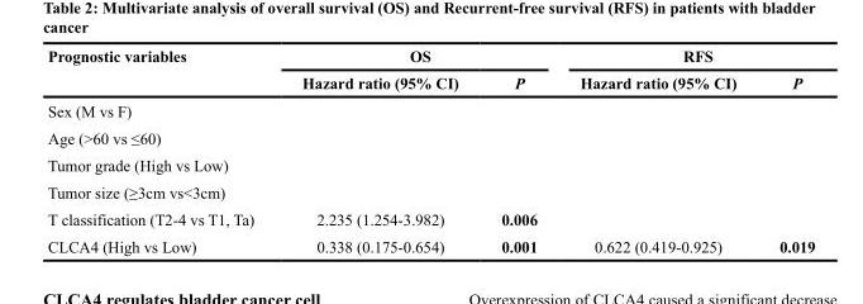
<table><thead><tr><td rowspan="2">Prognostic variables</td><td colspan="2">OS</td><td colspan="2">RFS</td></tr><tr><td>Hazard ratio (95% CI)</td><td>P</td><td>Hazard ratio (95% CI)</td><td>P</td></tr></thead><tbody><tr><td colspan="5">Sex (M vs F)</td></tr><tr><td colspan="5">Age (&gt;60 vs ≤60)</td></tr><tr><td colspan="5">Tumor grade (High vs Low)</td></tr><tr><td colspan="5">Tumor size (≥3cm vs&lt;3cm)</td></tr><tr><td>T classification (T2-4 vs T1, Ta)</td><td>2.235 (1.254-3.982)</td><td>0.006</td><td></td><td></td></tr><tr><td>CLCA4 (High vs Low)</td><td>0.338 (0.175-0.654)</td><td>0.001</td><td>0.622 (0.419-0.925)</td><td>0.019</td></tr></tbody></table>